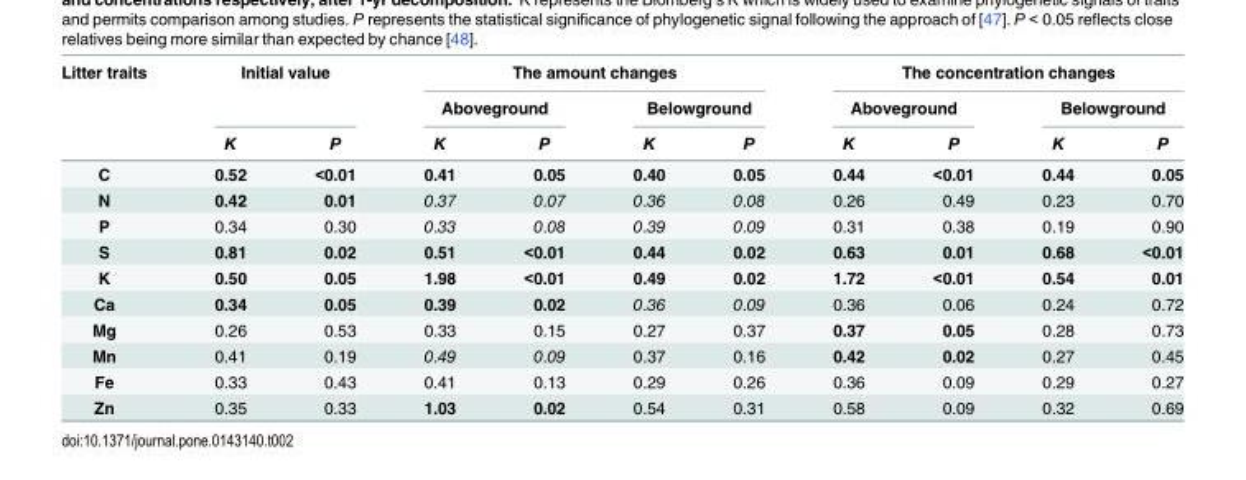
<table><thead><tr><td rowspan="3">Litter traits</td><td rowspan="2" colspan="2">Initial value</td><td colspan="4">The amount changes</td><td colspan="4">The concentration changes</td></tr><tr><td colspan="2">Aboveground</td><td colspan="2">Belowground</td><td colspan="2">Aboveground</td><td colspan="2">Belowground</td></tr><tr><td>K</td><td>P</td><td>K</td><td>P</td><td>K</td><td>P</td><td>K</td><td>P</td><td>K</td><td>P</td></tr></thead><tbody><tr><td>C</td><td>0.52</td><td>&lt;0.01</td><td>0.41</td><td>0.05</td><td>0.40</td><td>0.05</td><td>0.44</td><td>&lt;0.01</td><td>0.44</td><td>0.05</td></tr><tr><td>N</td><td>0.42</td><td>0.01</td><td>0.37</td><td>0.07</td><td>0.36</td><td>0.08</td><td>0.26</td><td>0.49</td><td>0.23</td><td>0.70</td></tr><tr><td>P</td><td>0.34</td><td>0.30</td><td>0.33</td><td>0.08</td><td>0.39</td><td>0.09</td><td>0.31</td><td>0.38</td><td>0.19</td><td>0.90</td></tr><tr><td>S</td><td>0.81</td><td>0.02</td><td>0.51</td><td>&lt;0.01</td><td>0.44</td><td>0.02</td><td>0.63</td><td>0.01</td><td>0.68</td><td>&lt;0.01</td></tr><tr><td>K</td><td>0.50</td><td>0.05</td><td>1.98</td><td>&lt;0.01</td><td>0.49</td><td>0.02</td><td>1.72</td><td>&lt;0.01</td><td>0.54</td><td>0.01</td></tr><tr><td>Ca</td><td>0.34</td><td>0.05</td><td>0.39</td><td>0.02</td><td>0.36</td><td>0.09</td><td>0.36</td><td>0.06</td><td>0.24</td><td>0.72</td></tr><tr><td>Mg</td><td>0.26</td><td>0.53</td><td>0.33</td><td>0.15</td><td>0.27</td><td>0.37</td><td>0.37</td><td>0.05</td><td>0.28</td><td>0.73</td></tr><tr><td>Mn</td><td>0.41</td><td>0.19</td><td>0.49</td><td>0.09</td><td>0.37</td><td>0.16</td><td>0.42</td><td>0.02</td><td>0.27</td><td>0.45</td></tr><tr><td>Fe</td><td>0.33</td><td>0.43</td><td>0.41</td><td>0.13</td><td>0.29</td><td>0.26</td><td>0.36</td><td>0.09</td><td>0.29</td><td>0.27</td></tr><tr><td>Zn</td><td>0.35</td><td>0.33</td><td>1.03</td><td>0.02</td><td>0.54</td><td>0.31</td><td>0.58</td><td>0.09</td><td>0.32</td><td>0.69</td></tr></tbody></table>